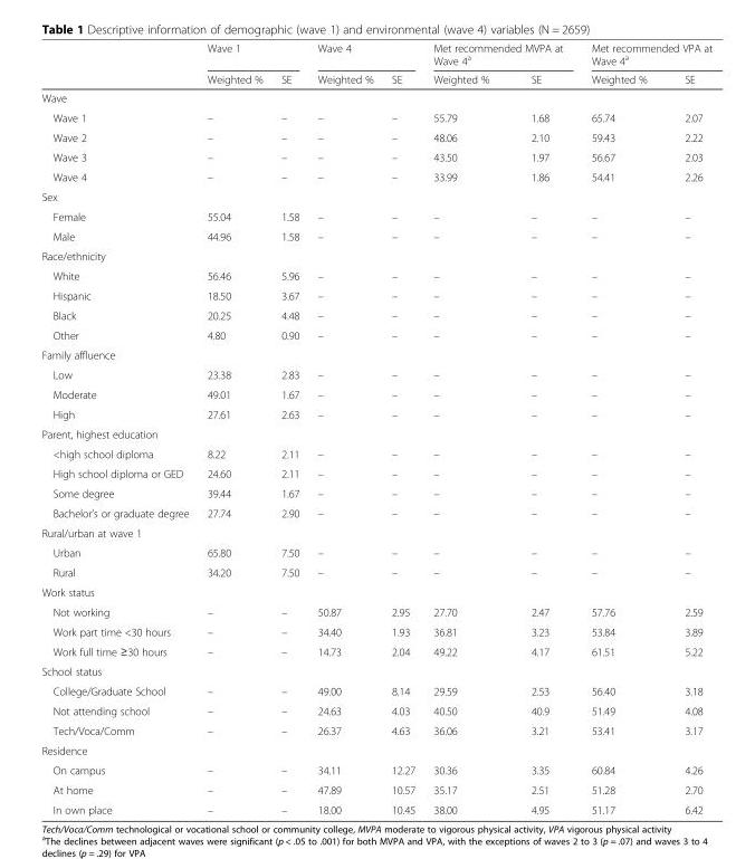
<table><thead><tr><td rowspan="2"></td><td colspan="2">Wave 1</td><td colspan="2">Wave 4</td><td colspan="2">Met recommended MVPA at Wave 4<sup>a</sup></td><td colspan="2">Met recommended VPA at Wave 4<sup>a</sup></td></tr><tr><td>Weighted %</td><td>SE</td><td>Weighted %</td><td>SE</td><td>Weighted %</td><td>SE</td><td>Weighted %</td><td>SE</td></tr></thead><tbody><tr><td colspan="9">Wave</td></tr><tr><td>Wave 1</td><td>–</td><td>–</td><td>–</td><td>–</td><td>55.79</td><td>1.68</td><td>65.74</td><td>2.07</td></tr><tr><td>Wave 2</td><td>–</td><td>–</td><td>–</td><td>–</td><td>48.06</td><td>2.10</td><td>59.43</td><td>2.22</td></tr><tr><td>Wave 3</td><td>–</td><td>–</td><td>–</td><td>–</td><td>43.50</td><td>1.97</td><td>56.67</td><td>2.03</td></tr><tr><td>Wave 4</td><td>–</td><td>–</td><td>–</td><td>–</td><td>33.99</td><td>1.86</td><td>54.41</td><td>2.26</td></tr><tr><td colspan="9">Sex</td></tr><tr><td>Female</td><td>55.04</td><td>1.58</td><td>–</td><td>–</td><td>–</td><td>–</td><td>–</td><td>–</td></tr><tr><td>Male</td><td>44.96</td><td>1.58</td><td>–</td><td>–</td><td>–</td><td>–</td><td>–</td><td>–</td></tr><tr><td colspan="9">Race/ethnicity</td></tr><tr><td>White</td><td>56.46</td><td>5.96</td><td>–</td><td>–</td><td>–</td><td>–</td><td>–</td><td>–</td></tr><tr><td>Hispanic</td><td>18.50</td><td>3.67</td><td>–</td><td>–</td><td>–</td><td>–</td><td>–</td><td>–</td></tr><tr><td>Black</td><td>20.25</td><td>4.48</td><td>–</td><td>–</td><td>–</td><td>–</td><td>–</td><td>–</td></tr><tr><td>Other</td><td>4.80</td><td>0.90</td><td>–</td><td>–</td><td>–</td><td>–</td><td>–</td><td>–</td></tr><tr><td colspan="9">Family affluence</td></tr><tr><td>Low</td><td>23.38</td><td>2.83</td><td>–</td><td>–</td><td>–</td><td>–</td><td>–</td><td>–</td></tr><tr><td>Moderate</td><td>49.01</td><td>1.67</td><td>–</td><td>–</td><td>–</td><td>–</td><td>–</td><td>–</td></tr><tr><td>High</td><td>27.61</td><td>2.63</td><td>–</td><td>–</td><td>–</td><td>–</td><td>–</td><td>–</td></tr><tr><td colspan="9">Parent, highest education</td></tr><tr><td>&lt;high school diploma</td><td>8.22</td><td>2.11</td><td>–</td><td>–</td><td>–</td><td>–</td><td>–</td><td>–</td></tr><tr><td>High school diploma or GED</td><td>24.60</td><td>2.11</td><td>–</td><td>–</td><td>–</td><td>–</td><td>–</td><td>–</td></tr><tr><td>Some degree</td><td>39.44</td><td>1.67</td><td>–</td><td>–</td><td>–</td><td>–</td><td>–</td><td>–</td></tr><tr><td>Bachelor’s or graduate degree</td><td>27.74</td><td>2.90</td><td>–</td><td>–</td><td>–</td><td>–</td><td>–</td><td>–</td></tr><tr><td colspan="9">Rural/urban at wave 1</td></tr><tr><td>Urban</td><td>65.80</td><td>7.50</td><td>–</td><td>–</td><td>–</td><td>–</td><td>–</td><td>–</td></tr><tr><td>Rural</td><td>34.20</td><td>7.50</td><td>–</td><td>–</td><td>–</td><td>–</td><td>–</td><td>–</td></tr><tr><td colspan="9">Work status</td></tr><tr><td>Not working</td><td>–</td><td>–</td><td>50.87</td><td>2.95</td><td>27.70</td><td>2.47</td><td>57.76</td><td>2.59</td></tr><tr><td>Work part time &lt;30 hours</td><td>–</td><td>–</td><td>34.40</td><td>1.93</td><td>36.81</td><td>3.23</td><td>53.84</td><td>3.89</td></tr><tr><td>Work full time ≥30 hours</td><td>–</td><td>–</td><td>14.73</td><td>2.04</td><td>49.22</td><td>4.17</td><td>61.51</td><td>5.22</td></tr><tr><td colspan="9">School status</td></tr><tr><td>College/Graduate School</td><td>–</td><td>–</td><td>49.00</td><td>8.14</td><td>29.59</td><td>2.53</td><td>56.40</td><td>3.18</td></tr><tr><td>Not attending school</td><td>–</td><td>–</td><td>24.63</td><td>4.03</td><td>40.50</td><td>40.9</td><td>51.49</td><td>4.08</td></tr><tr><td>Tech/Voca/Comm</td><td>–</td><td>–</td><td>26.37</td><td>4.63</td><td>36.06</td><td>3.21</td><td>53.41</td><td>3.17</td></tr><tr><td colspan="9">Residence</td></tr><tr><td>On campus</td><td>–</td><td>–</td><td>34.11</td><td>12.27</td><td>30.36</td><td>3.35</td><td>60.84</td><td>4.26</td></tr><tr><td>At home</td><td>–</td><td>–</td><td>47.89</td><td>10.57</td><td>35.17</td><td>2.51</td><td>51.28</td><td>2.70</td></tr><tr><td>In own place</td><td>–</td><td>–</td><td>18.00</td><td>10.45</td><td>38.00</td><td>4.95</td><td>51.17</td><td>6.42</td></tr></tbody></table>